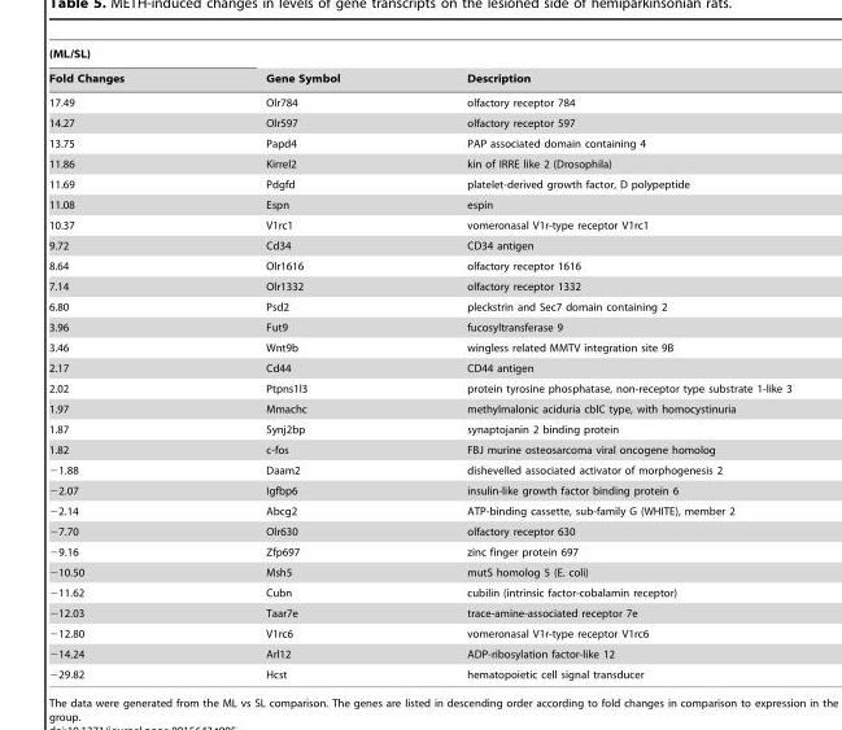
<table><thead><tr><td rowspan="2">(ML/SL) Fold Changes</td><td rowspan="2">Gene Symbol</td><td rowspan="2">Description</td></tr><tr></tr></thead><tbody><tr><td>17.49</td><td>Olr784</td><td>olfactory receptor 784</td></tr><tr><td>14.27</td><td>Olr597</td><td>olfactory receptor 597</td></tr><tr><td>13.75</td><td>Papd4</td><td>PAP associated domain containing 4</td></tr><tr><td>11.86</td><td>Kirrel2</td><td>kin of IRRE like 2 (Drosophila)</td></tr><tr><td>11.69</td><td>Pdgfd</td><td>platelet-derived growth factor, D polypeptide</td></tr><tr><td>11.08</td><td>Espn</td><td>espin</td></tr><tr><td>10.37</td><td>V1rc1</td><td>vomeronasal V1r-type receptor V1rc1</td></tr><tr><td>9.72</td><td>Cd34</td><td>CD34 antigen</td></tr><tr><td>8.64</td><td>Olr1616</td><td>olfactory receptor 1616</td></tr><tr><td>7.14</td><td>Olr1332</td><td>olfactory receptor 1332</td></tr><tr><td>6.80</td><td>Psd2</td><td>pleckstrin and Sec7 domain containing 2</td></tr><tr><td>3.96</td><td>Fut9</td><td>fucosyltransferase 9</td></tr><tr><td>3.46</td><td>Wnt9b</td><td>wingless related MMTV integration site 9B</td></tr><tr><td>2.17</td><td>Cd44</td><td>CD44 antigen</td></tr><tr><td>2.02</td><td>Ptpns1l3</td><td>protein tyrosine phosphatase, non-receptor type substrate 1-like 3</td></tr><tr><td>1.97</td><td>Mmachc</td><td>methylmalonic aciduria cblC type, with homocystinuria</td></tr><tr><td>1.87</td><td>Synj2bp</td><td>synaptojanin 2 binding protein</td></tr><tr><td>1.82</td><td>c-fos</td><td>FBJ murine osteosarcoma viral oncogene homolog</td></tr><tr><td>−1.88</td><td>Daam2</td><td>dishevelled associated activator of morphogenesis 2</td></tr><tr><td>−2.07</td><td>Igfbp6</td><td>insulin-like growth factor binding protein 6</td></tr><tr><td>−2.14</td><td>Abcg2</td><td>ATP-binding cassette, sub-family G (WHITE), member 2</td></tr><tr><td>−7.70</td><td>Olr630</td><td>olfactory receptor 630</td></tr><tr><td>−9.16</td><td>Zfp697</td><td>zinc finger protein 697</td></tr><tr><td>−10.50</td><td>Msh5</td><td>mutS homolog 5 (E. coli)</td></tr><tr><td>−11.62</td><td>Cubn</td><td>cubilin (intrinsic factor-cobalamin receptor)</td></tr><tr><td>−12.03</td><td>Taar7e</td><td>trace-amine-associated receptor 7e</td></tr><tr><td>−12.80</td><td>V1rc6</td><td>vomeronasal V1r-type receptor V1rc6</td></tr><tr><td>−14.24</td><td>Arl12</td><td>ADP-ribosylation factor-like 12</td></tr><tr><td>−29.82</td><td>Hcst</td><td>hematopoietic cell signal transducer</td></tr></tbody></table>